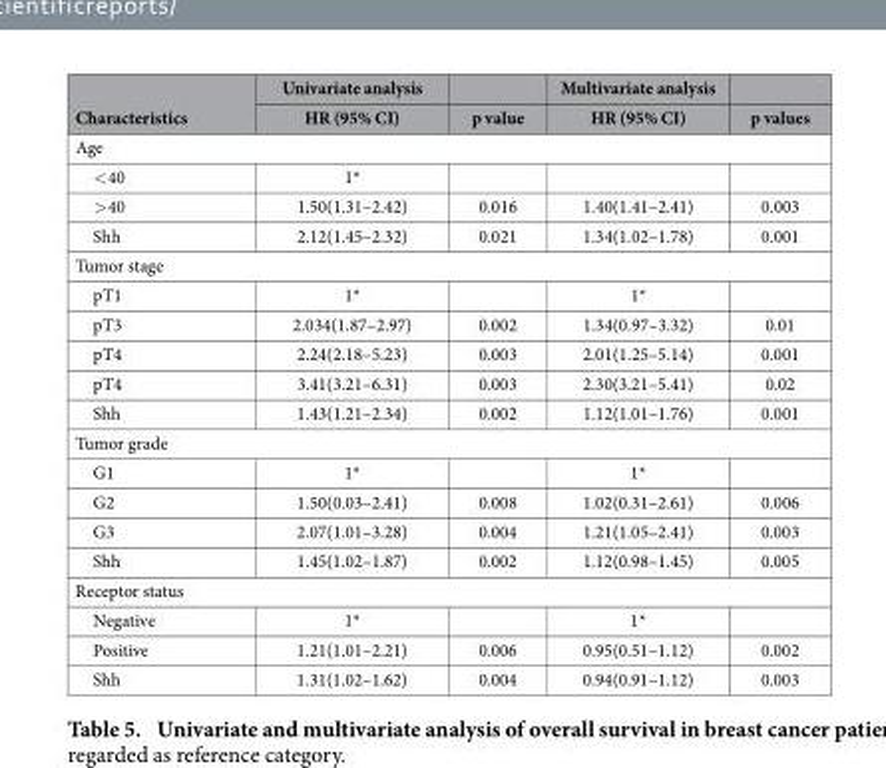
<table><thead><tr><td rowspan="2">Characteristics</td><td colspan="2">Univariate analysis</td><td colspan="2">Multivariate analysis</td></tr><tr><td>HR (95% CI)</td><td>p value</td><td>HR (95% CI)</td><td>p values</td></tr></thead><tbody><tr><td colspan="5">Age</td></tr><tr><td>&lt; 40</td><td>1*</td><td></td><td></td><td></td></tr><tr><td>&gt; 40</td><td>1.50(1.31–2.42)</td><td>0.016</td><td>1.40(1.41–2.41)</td><td>0.003</td></tr><tr><td>Shh</td><td>2.12(1.45–2.32)</td><td>0.021</td><td>1.34(1.02–1.78)</td><td>0.001</td></tr><tr><td colspan="5">Tumor stage</td></tr><tr><td>pT1</td><td>1*</td><td></td><td>1*</td><td></td></tr><tr><td>pT3</td><td>2.034(1.87–2.97)</td><td>0.002</td><td>1.34(0.97–3.32)</td><td>0.01</td></tr><tr><td>pT4</td><td>2.24(2.18–5.23)</td><td>0.003</td><td>2.01(1.25–5.14)</td><td>0.001</td></tr><tr><td>pT4</td><td>3.41(3.21–6.31)</td><td>0.003</td><td>2.30(3.21–5.41)</td><td>0.02</td></tr><tr><td>Shh</td><td>1.43(1.21–2.34)</td><td>0.002</td><td>1.12(1.01–1.76)</td><td>0.001</td></tr><tr><td colspan="5">Tumor grade</td></tr><tr><td>G1</td><td>1*</td><td></td><td>1*</td><td></td></tr><tr><td>G2</td><td>1.50(0.03–2.41)</td><td>0.008</td><td>1.02(0.31–2.61)</td><td>0.006</td></tr><tr><td>G3</td><td>2.07(1.01–3.28)</td><td>0.004</td><td>1.21(1.05–2.41)</td><td>0.003</td></tr><tr><td>Shh</td><td>1.45(1.02–1.87)</td><td>0.002</td><td>1.12(0.98–1.45)</td><td>0.005</td></tr><tr><td colspan="5">Receptor status</td></tr><tr><td>Negative</td><td>1*</td><td></td><td>1*</td><td></td></tr><tr><td>Positive</td><td>1.21(1.01–2.21)</td><td>0.006</td><td>0.95(0.51–1.12)</td><td>0.002</td></tr><tr><td>Shh</td><td>1.31(1.02–1.62)</td><td>0.004</td><td>0.94(0.91–1.12)</td><td>0.003</td></tr></tbody></table>